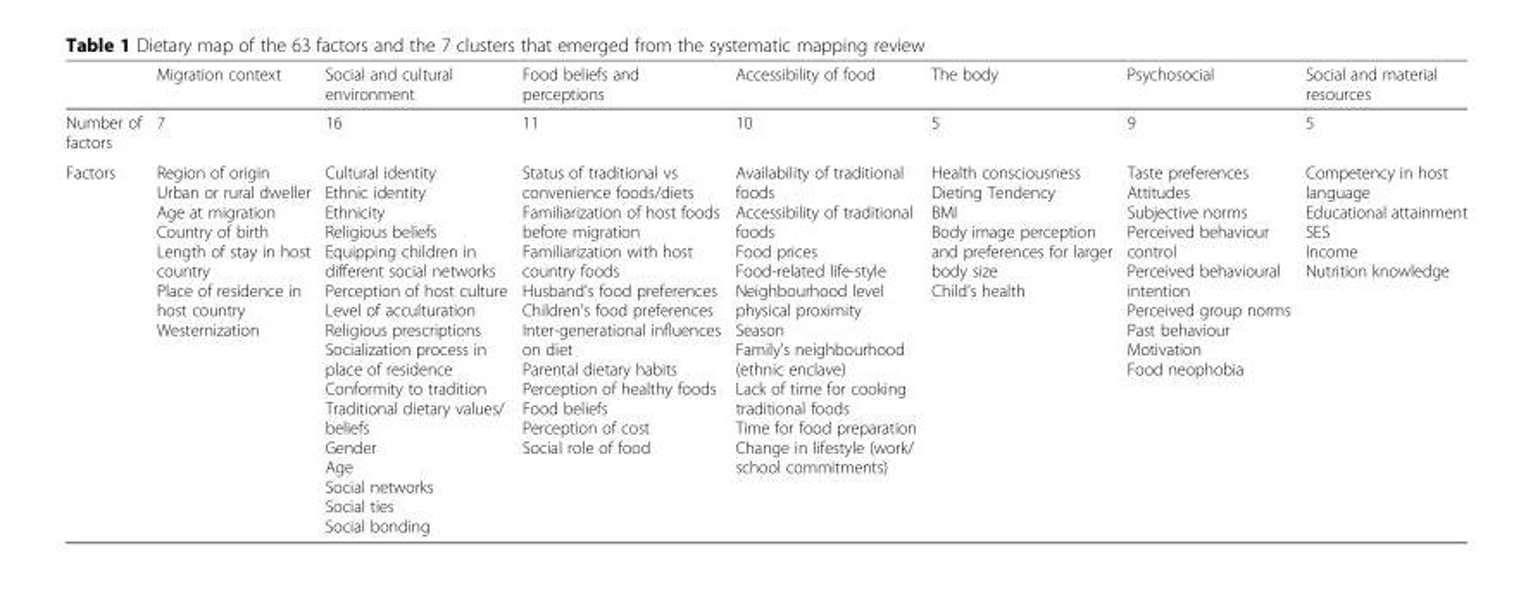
<table><thead><tr><td></td><td>Migration context</td><td>Social and cultural environment</td><td>Food beliefs and perceptions</td><td>Accessibility of food</td><td>The body</td><td>Psychosocial</td><td>Social and material resources</td></tr></thead><tbody><tr><td>Number of factors</td><td>7</td><td>16</td><td>11</td><td>10</td><td>5</td><td>9</td><td>5</td></tr><tr><td>Factors</td><td>Region of origin Urban or rural dweller Age at migration Country of birth Length of stay in host country Place of residence in host country Westernization</td><td>Cultural identity Ethnic identity Ethnicity Religious beliefs Equipping children in different social networks Perception of host culture Level of acculturation Religious prescriptions Socialization process in place of residence Conformity to tradition Traditional dietary values/ beliefs Gender Age Social networks Social ties Social bonding</td><td>Status of traditional vs convenience foods/diets Familiarization of host foods before migration Familiarization with host country foods Husband&#x27;s food preferences Children&#x27;s food preferences Inter-generational influences on diet Parental dietary habits Perception of healthy foods Food beliefs Perception of cost Social role of food</td><td>Availability of traditional foods Accessibility of traditional foods Food prices Food-related life-style Neighbourhood level physical proximity Season Family’s neighbourhood (ethnic enclave) Lack of time for cooking traditional foods Time for food preparation Change in lifestyle (work/ school commitments)</td><td>Health consciousness Dieting Tendency BMI Body image perception and preferences for larger body size Child’s health</td><td>Taste preferences Attitudes Subjective norms Perceived behaviour control Perceived behavioural intention Perceived group norms Past behaviour Motivation Food neophobia</td><td>Competency in host language Educational attainment SES Income Nutrition knowledge</td></tr></tbody></table>